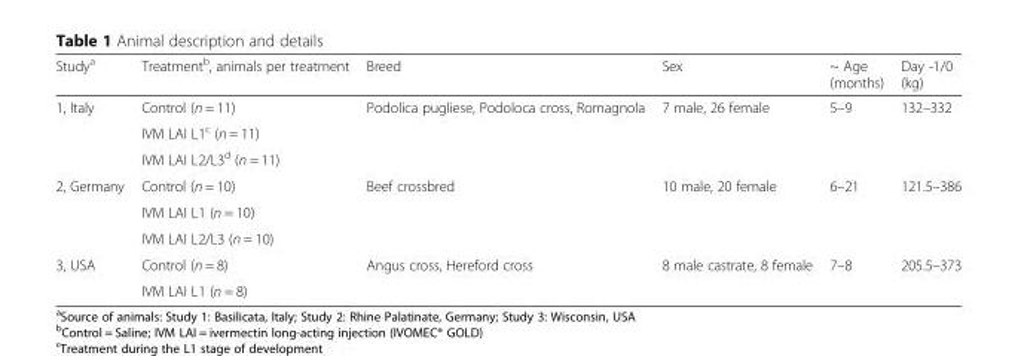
<table><thead><tr><td>Study<sup>a</sup></td><td>Treatment<sup>b</sup>, animals per treatment</td><td>Breed</td><td>Sex</td><td>~ Age (months)</td><td>Day -1/0 (kg)</td></tr></thead><tbody><tr><td rowspan="3">1, Italy</td><td>Control (n = 11)</td><td rowspan="3">Podolica pugliese, Podoloca cross, Romagnola</td><td rowspan="3">7 male, 26 female</td><td rowspan="3">5–9</td><td rowspan="3">132–332</td></tr><tr><td>IVM LAI L1<sup>c</sup> (n = 11)</td></tr><tr><td>IVM LAI L2/L3<sup>d</sup> (n = 11)</td></tr><tr><td rowspan="3">2, Germany</td><td>Control (n = 10)</td><td rowspan="3">Beef crossbred</td><td rowspan="3">10 male, 20 female</td><td rowspan="3">6–21</td><td rowspan="3">121.5–386</td></tr><tr><td>IVM LAI L1 (n = 10)</td></tr><tr><td>IVM LAI L2/L3 (n = 10)</td></tr><tr><td rowspan="2">3, USA</td><td>Control (n = 8)</td><td rowspan="2">Angus cross, Hereford cross</td><td rowspan="2">8 male castrate, 8 female</td><td rowspan="2">7–8</td><td rowspan="2">205.5–373</td></tr><tr><td>IVM LAI L1 (n = 8)</td></tr></tbody></table>